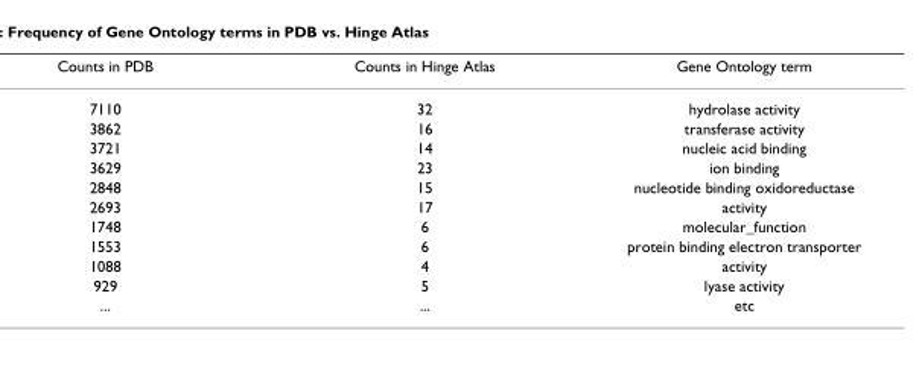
<table><thead><tr><td>Counts in PDB</td><td>Counts in Hinge Atlas</td><td>Gene Ontology term</td></tr></thead><tbody><tr><td>7110</td><td>32</td><td>hydrolase activity</td></tr><tr><td>3862</td><td>16</td><td>transferase activity</td></tr><tr><td>3721</td><td>14</td><td>nucleic acid binding</td></tr><tr><td>3629</td><td>23</td><td>ion binding</td></tr><tr><td>2848</td><td>15</td><td>nucleotide binding oxidoreductase</td></tr><tr><td>2693</td><td>17</td><td>activity</td></tr><tr><td>1748</td><td>6</td><td>molecular_function</td></tr><tr><td>1553</td><td>6</td><td>protein binding electron transporter</td></tr><tr><td>1088</td><td>4</td><td>activity</td></tr><tr><td>929</td><td>5</td><td>lyase activity</td></tr><tr><td>...</td><td>...</td><td>etc</td></tr></tbody></table>